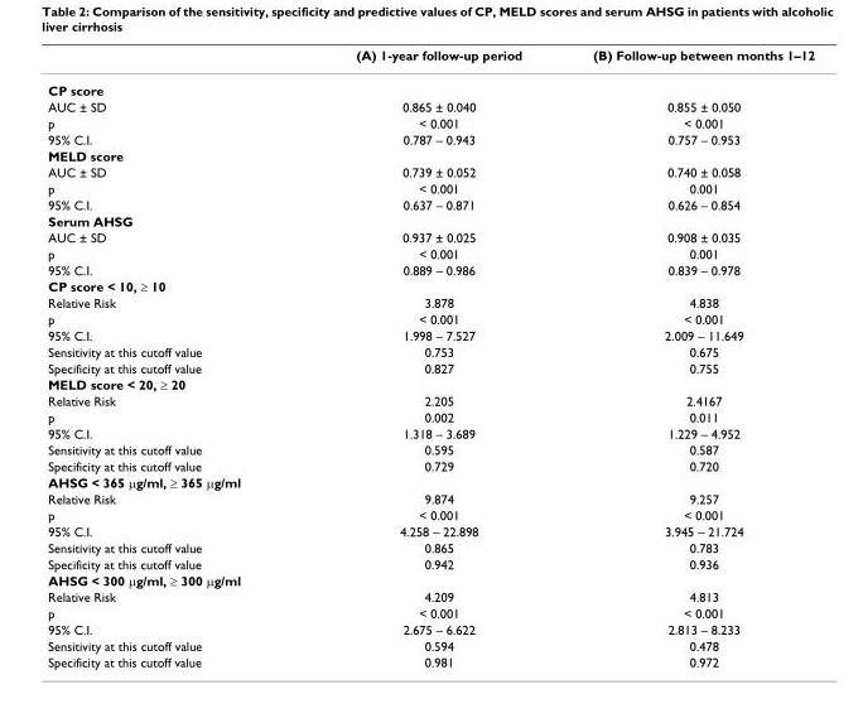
<table><thead><tr><td></td><td>(A) 1-year follow-up period</td><td>(B) Follow-up between months 1–12</td></tr></thead><tbody><tr><td colspan="3">CP score</td></tr><tr><td>AUC ± SD</td><td>0.865 ± 0.040</td><td>0.855 ± 0.050</td></tr><tr><td>p</td><td>&lt; 0.001</td><td>&lt; 0.001</td></tr><tr><td>95% C.I.</td><td>0.787 – 0.943</td><td>0.757 – 0.953</td></tr><tr><td colspan="3">MELD score</td></tr><tr><td>AUC ± SD</td><td>0.739 ± 0.052</td><td>0.740 ± 0.058</td></tr><tr><td>p</td><td>&lt; 0.001</td><td>0.001</td></tr><tr><td>95% C.I.</td><td>0.637 – 0.871</td><td>0.626 – 0.854</td></tr><tr><td colspan="3">Serum AHSG</td></tr><tr><td>AUC ± SD</td><td>0.937 ± 0.025</td><td>0.908 ± 0.035</td></tr><tr><td>p</td><td>&lt; 0.001</td><td>0.001</td></tr><tr><td>95% C.I.</td><td>0.889 – 0.986</td><td>0.839 – 0.978</td></tr><tr><td colspan="3">CP score &lt; 10, ≥ 10</td></tr><tr><td>Relative Risk</td><td>3.878</td><td>4.838</td></tr><tr><td>p</td><td>&lt; 0.001</td><td>&lt; 0.001</td></tr><tr><td>95% C.I.</td><td>1.998 – 7.527</td><td>2.009 – 11.649</td></tr><tr><td>Sensitivity at this cutoff value</td><td>0.753</td><td>0.675</td></tr><tr><td>Specificity at this cutoff value</td><td>0.827</td><td>0.755</td></tr><tr><td colspan="3">MELD score &lt; 20, ≥ 20</td></tr><tr><td>Relative Risk</td><td>2.205</td><td>2.4167</td></tr><tr><td>p</td><td>0.002</td><td>0.011</td></tr><tr><td>95% C.I.</td><td>1.318 – 3.689</td><td>1.229 – 4.952</td></tr><tr><td>Sensitivity at this cutoff value</td><td>0.595</td><td>0.587</td></tr><tr><td>Specificity at this cutoff value</td><td>0.729</td><td>0.720</td></tr><tr><td colspan="3">AHSG &lt; 365 μg/ml, ≥ 365 μg/ml</td></tr><tr><td>Relative Risk</td><td>9.874</td><td>9.257</td></tr><tr><td>p</td><td>&lt; 0.001</td><td>&lt; 0.001</td></tr><tr><td>95% C.I.</td><td>4.258 – 22.898</td><td>3.945 – 21.724</td></tr><tr><td>Sensitivity at this cutoff value</td><td>0.865</td><td>0.783</td></tr><tr><td>Specificity at this cutoff value</td><td>0.942</td><td>0.936</td></tr><tr><td colspan="3">AHSG &lt; 300 μg/ml, ≥ 300 μg/ml</td></tr><tr><td>Relative Risk</td><td>4.209</td><td>4.813</td></tr><tr><td>p</td><td>&lt; 0.001</td><td>&lt; 0.001</td></tr><tr><td>95% C.I.</td><td>2.675 – 6.622</td><td>2.813 – 8.233</td></tr><tr><td>Sensitivity at this cutoff value</td><td>0.594</td><td>0.478</td></tr><tr><td>Specificity at this cutoff value</td><td>0.981</td><td>0.972</td></tr></tbody></table>